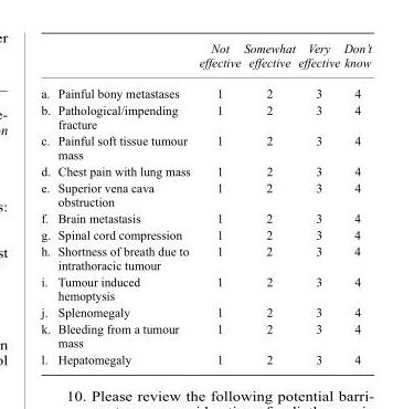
<table><thead><tr><td></td><td>Not effective</td><td>Somewhat effective</td><td>Very effective</td><td>Don’t know</td></tr></thead><tbody><tr><td>a. Painful bony metastases</td><td>1</td><td>2</td><td>3</td><td>4</td></tr><tr><td>b. Pathological/impending fracture</td><td>1</td><td>2</td><td>3</td><td>4</td></tr><tr><td>c. Painful soft tissue tumour mass</td><td>1</td><td>2</td><td>3</td><td>4</td></tr><tr><td>d. Chest pain with lung mass</td><td>1</td><td>2</td><td>3</td><td>4</td></tr><tr><td>e. Superior vena cava obstruction</td><td>1</td><td>2</td><td>3</td><td>4</td></tr><tr><td>f. Brain metastasis</td><td>1</td><td>2</td><td>3</td><td>4</td></tr><tr><td>g. Spinal cord compression</td><td>1</td><td>2</td><td>3</td><td>4</td></tr><tr><td>h. Shortness of breath due to intrathoracic tumour</td><td>1</td><td>2</td><td>3</td><td>4</td></tr><tr><td>i. Tumour induced hemoptysis</td><td>1</td><td>2</td><td>3</td><td>4</td></tr><tr><td>j. Splenomegaly</td><td>1</td><td>2</td><td>3</td><td>4</td></tr><tr><td>k. Bleeding from a tumour mass</td><td>1</td><td>2</td><td>3</td><td>4</td></tr><tr><td>l. Hepatomegaly</td><td>1</td><td>2</td><td>3</td><td>4</td></tr></tbody></table>